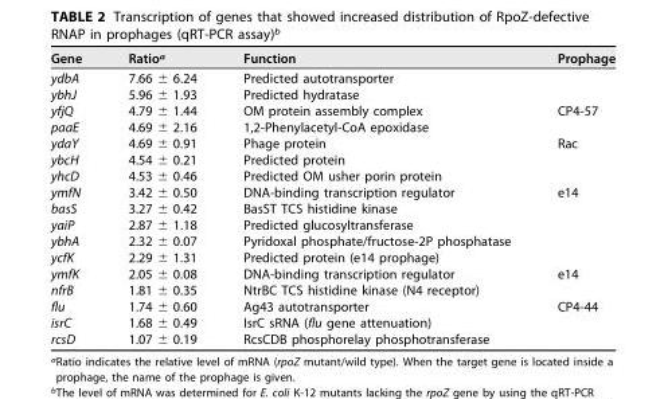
<table><thead><tr><td>Gene</td><td>Ratio<sup>a</sup></td><td>Function</td><td>Prophage</td></tr></thead><tbody><tr><td>ydbA</td><td>7.66 ± 6.24</td><td>Predicted autotransporter</td><td></td></tr><tr><td>ybhJ</td><td>5.96 ± 1.93</td><td>Predicted hydratase</td><td></td></tr><tr><td>yfjQ</td><td>4.79 ± 1.44</td><td>OM protein assembly complex</td><td>CP4-57</td></tr><tr><td>paaE</td><td>4.69 ± 2.16</td><td>1,2-Phenylacetyl-CoA epoxidase</td><td></td></tr><tr><td>ydaY</td><td>4.69 ± 0.91</td><td>Phage protein</td><td>Rac</td></tr><tr><td>ybcH</td><td>4.54 ± 0.21</td><td>Predicted protein</td><td></td></tr><tr><td>yhcD</td><td>4.53 ± 0.46</td><td>Predicted OM usher porin protein</td><td></td></tr><tr><td>ymfN</td><td>3.42 ± 0.50</td><td>DNA-binding transcription regulator</td><td>e14</td></tr><tr><td>basS</td><td>3.27 ± 0.42</td><td>BasST TCS histidine kinase</td><td></td></tr><tr><td>yaiP</td><td>2.87 ± 1.18</td><td>Predicted glucosyltransferase</td><td></td></tr><tr><td>ybhA</td><td>2.32 ± 0.07</td><td>Pyridoxal phosphate/fructose-2P phosphatase</td><td></td></tr><tr><td>ycfK</td><td>2.29 ± 1.31</td><td>Predicted protein (e14 prophage)</td><td></td></tr><tr><td>ymfK</td><td>2.05 ± 0.08</td><td>DNA-binding transcription regulator</td><td>e14</td></tr><tr><td>nfrB</td><td>1.81 ± 0.35</td><td>NtrBC TCS histidine kinase (N4 receptor)</td><td></td></tr><tr><td>flu</td><td>1.74 ± 0.60</td><td>Ag43 autotransporter</td><td>CP4-44</td></tr><tr><td>isrC</td><td>1.68 ± 0.49</td><td>IsrC sRNA (flu gene attenuation)</td><td></td></tr><tr><td>rcsD</td><td>1.07 ± 0.19</td><td>RcsCDB phosphorelay phosphotransferase</td><td></td></tr></tbody></table>